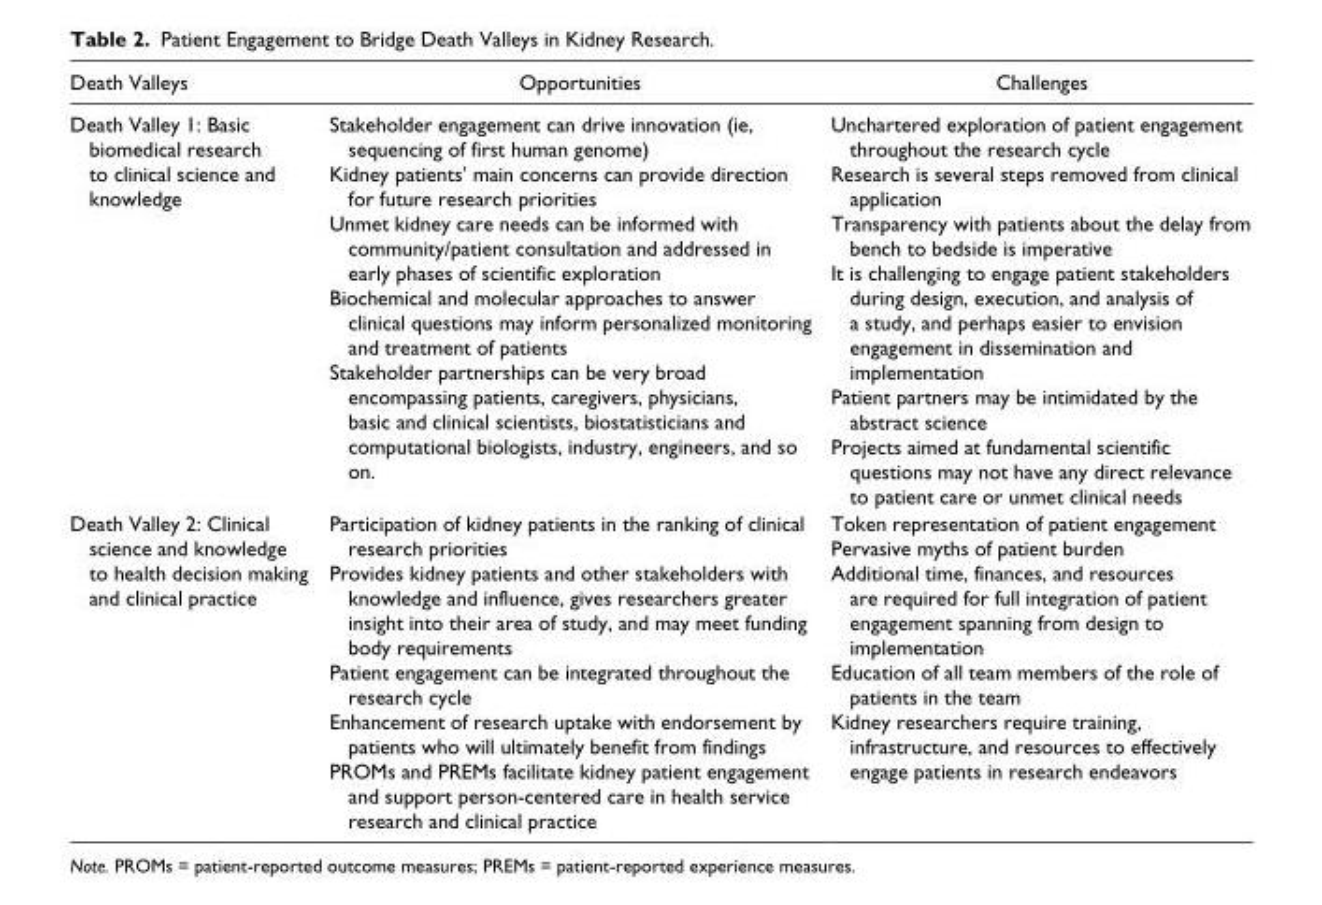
<table><thead><tr><td>Death Valleys</td><td>Opportunities</td><td>Challenges</td></tr></thead><tbody><tr><td>Death Valley 1: Basic biomedical research to clinical science and knowledge</td><td>Stakeholder engagement can drive innovation (ie, sequencing of first human genome) Kidney patients’ main concerns can provide direction for future research priorities Unmet kidney care needs can be informed with community/patient consultation and addressed in early phases of scientific exploration Biochemical and molecular approaches to answer clinical questions may inform personalized monitoring and treatment of patients Stakeholder partnerships can be very broad encompassing patients, caregivers, physicians, basic and clinical scientists, biostatisticians and computational biologists, industry, engineers, and so on.</td><td>Unchartered exploration of patient engagement throughout the research cycle Research is several steps removed from clinical application Transparency with patients about the delay from bench to bedside is imperative It is challenging to engage patient stakeholders during design, execution, and analysis of a study, and perhaps easier to envision engagement in dissemination and implementation Patient partners may be intimidated by the abstract science Projects aimed at fundamental scientific questions may not have any direct relevance to patient care or unmet clinical needs</td></tr><tr><td>Death Valley 2: Clinical science and knowledge to health decision making and clinical practice</td><td>Participation of kidney patients in the ranking of clinical research priorities Provides kidney patients and other stakeholders with knowledge and influence, gives researchers greater insight into their area of study, and may meet funding body requirements Patient engagement can be integrated throughout the research cycle Enhancement of research uptake with endorsement by patients who will ultimately benefit from findings PROMs and PREMs facilitate kidney patient engagement and support person-centered care in health service research and clinical practice</td><td>Token representation of patient engagement Pervasive myths of patient burden Additional time, finances, and resources are required for full integration of patient engagement spanning from design to implementation Education of all team members of the role of patients in the team Kidney researchers require training, infrastructure, and resources to effectively engage patients in research endeavors</td></tr></tbody></table>